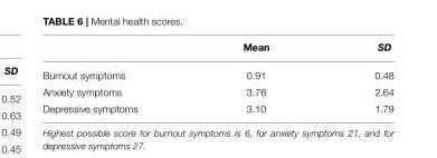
<table><thead><tr><td></td><td>Mean</td><td>SD</td></tr></thead><tbody><tr><td>Burnout symptoms</td><td>0.91</td><td>0.48</td></tr><tr><td>Anxiety symptoms</td><td>3.76</td><td>2.64</td></tr><tr><td>Depressive symptoms</td><td>3.10</td><td>1.79</td></tr></tbody></table>